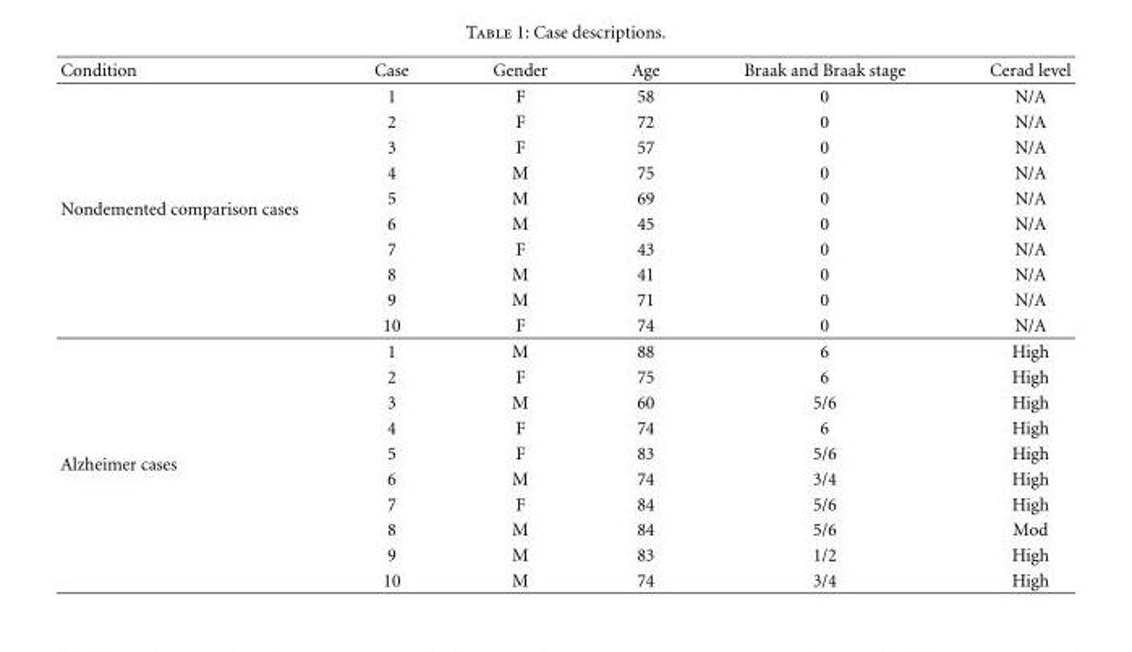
<table><thead><tr><td>Condition</td><td>Case</td><td>Gender</td><td>Age</td><td>Braak and Braak stage</td><td>Cerad level</td></tr></thead><tbody><tr><td rowspan="10">Nondemented comparison cases</td><td>1</td><td>F</td><td>58</td><td>0</td><td>N/A</td></tr><tr><td>2</td><td>F</td><td>72</td><td>0</td><td>N/A</td></tr><tr><td>3</td><td>F</td><td>57</td><td>0</td><td>N/A</td></tr><tr><td>4</td><td>M</td><td>75</td><td>0</td><td>N/A</td></tr><tr><td>5</td><td>M</td><td>69</td><td>0</td><td>N/A</td></tr><tr><td>6</td><td>M</td><td>45</td><td>0</td><td>N/A</td></tr><tr><td>7</td><td>F</td><td>43</td><td>0</td><td>N/A</td></tr><tr><td>8</td><td>M</td><td>41</td><td>0</td><td>N/A</td></tr><tr><td>9</td><td>M</td><td>71</td><td>0</td><td>N/A</td></tr><tr><td>10</td><td>F</td><td>74</td><td>0</td><td>N/A</td></tr><tr><td rowspan="10">Alzheimer cases</td><td>1</td><td>M</td><td>88</td><td>6</td><td>High</td></tr><tr><td>2</td><td>F</td><td>75</td><td>6</td><td>High</td></tr><tr><td>3</td><td>M</td><td>60</td><td>5/6</td><td>High</td></tr><tr><td>4</td><td>F</td><td>74</td><td>6</td><td>High</td></tr><tr><td>5</td><td>F</td><td>83</td><td>5/6</td><td>High</td></tr><tr><td>6</td><td>M</td><td>74</td><td>3/4</td><td>High</td></tr><tr><td>7</td><td>F</td><td>84</td><td>5/6</td><td>High</td></tr><tr><td>8</td><td>M</td><td>84</td><td>5/6</td><td>Mod</td></tr><tr><td>9</td><td>M</td><td>83</td><td>1/2</td><td>High</td></tr><tr><td>10</td><td>M</td><td>74</td><td>3/4</td><td>High</td></tr></tbody></table>